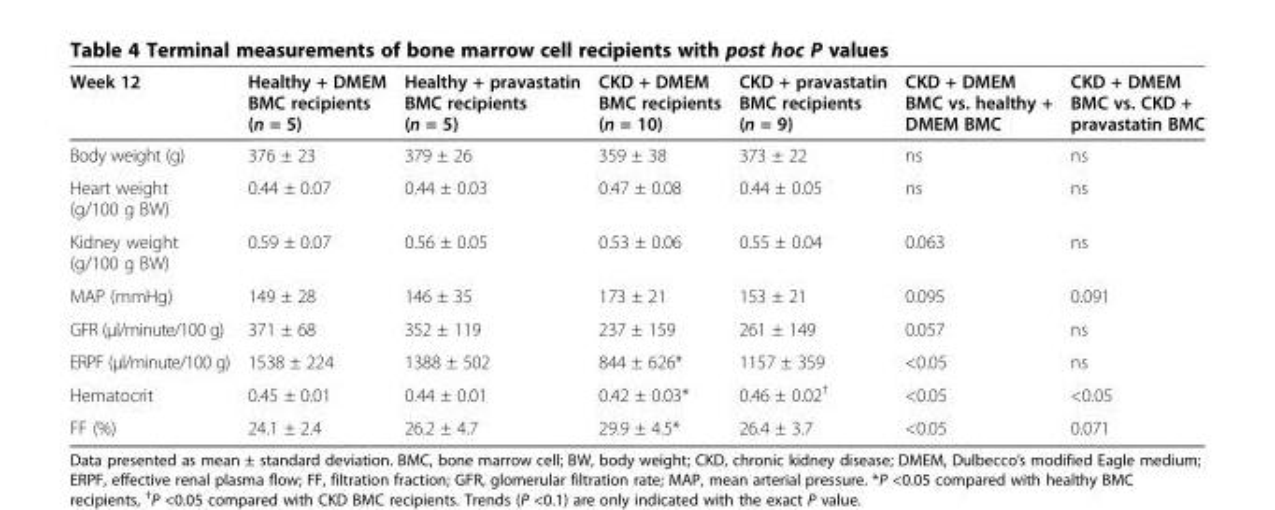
<table><thead><tr><td>Week 12</td><td>Healthy + DMEM BMC recipients (n = 5)</td><td>Healthy + pravastatin BMC recipients (n = 5)</td><td>CKD + DMEM BMC recipients (n = 10)</td><td>CKD + pravastatin BMC recipients (n = 9)</td><td>CKD + DMEM BMC vs. healthy + DMEM BMC</td><td>CKD + DMEM BMC vs. CKD + pravastatin BMC</td></tr></thead><tbody><tr><td>Body weight (g)</td><td>376 ± 23</td><td>379 ± 26</td><td>359 ± 38</td><td>373 ± 22</td><td>ns</td><td>ns</td></tr><tr><td>Heart weight (g/100 g BW)</td><td>0.44 ± 0.07</td><td>0.44 ± 0.03</td><td>0.47 ± 0.08</td><td>0.44 ± 0.05</td><td>ns</td><td>ns</td></tr><tr><td>Kidney weight (g/100 g BW)</td><td>0.59 ± 0.07</td><td>0.56 ± 0.05</td><td>0.53 ± 0.06</td><td>0.55 ± 0.04</td><td>0.063</td><td>ns</td></tr><tr><td>MAP (mmHg)</td><td>149 ± 28</td><td>146 ± 35</td><td>173 ± 21</td><td>153 ± 21</td><td>0.095</td><td>0.091</td></tr><tr><td>GFR (μl/minute/100 g)</td><td>371 ± 68</td><td>352 ± 119</td><td>237 ± 159</td><td>261 ± 149</td><td>0.057</td><td>ns</td></tr><tr><td>ERPF (μl/minute/100 g)</td><td>1538 ± 224</td><td>1388 ± 502</td><td>844 ± 626*</td><td>1157 ± 359</td><td>&lt;0.05</td><td>ns</td></tr><tr><td>Hematocrit</td><td>0.45 ± 0.01</td><td>0.44 ± 0.01</td><td>0.42 ± 0.03*</td><td>0.46 ± 0.02<sup>†</sup></td><td>&lt;0.05</td><td>&lt;0.05</td></tr><tr><td>FF (%)</td><td>24.1 ± 2.4</td><td>26.2 ± 4.7</td><td>29.9 ± 4.5*</td><td>26.4 ± 3.7</td><td>&lt;0.05</td><td>0.071</td></tr></tbody></table>